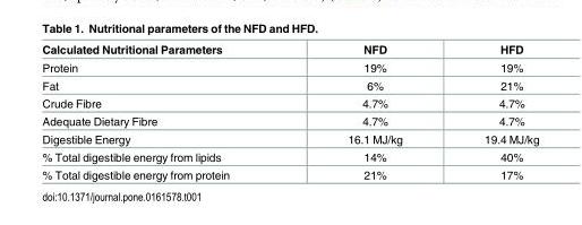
<table><thead><tr><td>Calculated Nutritional Parameters</td><td>NFD</td><td>HFD</td></tr></thead><tbody><tr><td>Protein</td><td>19%</td><td>19%</td></tr><tr><td>Fat</td><td>6%</td><td>21%</td></tr><tr><td>Crude Fibre</td><td>4.7%</td><td>4.7%</td></tr><tr><td>Adequate Dietary Fibre</td><td>4.7%</td><td>4.7%</td></tr><tr><td>Digestible Energy</td><td>16.1 MJ/kg</td><td>19.4 MJ/kg</td></tr><tr><td>% Total digestible energy from lipids</td><td>14%</td><td>40%</td></tr><tr><td>% Total digestible energy from protein</td><td>21%</td><td>17%</td></tr></tbody></table>